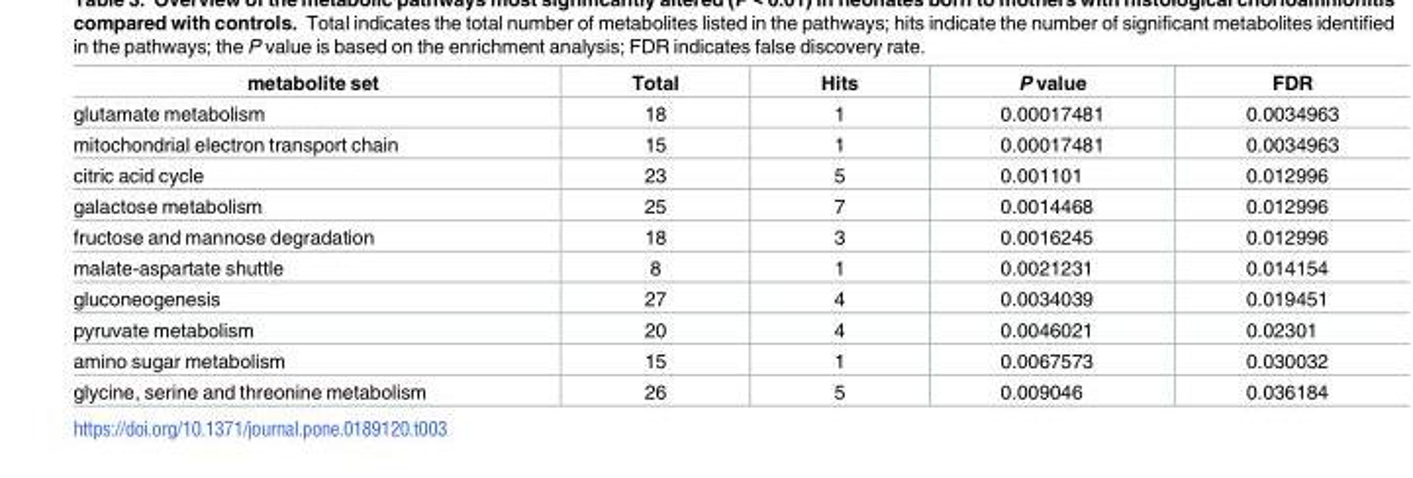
<table><thead><tr><td>metabolite set</td><td>Total</td><td>Hits</td><td>P value</td><td>FDR</td></tr></thead><tbody><tr><td>glutamate metabolism</td><td>18</td><td>1</td><td>0.00017481</td><td>0.0034963</td></tr><tr><td>mitochondrial electron transport chain</td><td>15</td><td>1</td><td>0.00017481</td><td>0.0034963</td></tr><tr><td>citric acid cycle</td><td>23</td><td>5</td><td>0.001101</td><td>0.012996</td></tr><tr><td>galactose metabolism</td><td>25</td><td>7</td><td>0.0014468</td><td>0.012996</td></tr><tr><td>fructose and mannose degradation</td><td>18</td><td>3</td><td>0.0016245</td><td>0.012996</td></tr><tr><td>malate-aspartate shuttle</td><td>8</td><td>1</td><td>0.0021231</td><td>0.014154</td></tr><tr><td>gluconeogenesis</td><td>27</td><td>4</td><td>0.0034039</td><td>0.019451</td></tr><tr><td>pyruvate metabolism</td><td>20</td><td>4</td><td>0.0046021</td><td>0.02301</td></tr><tr><td>amino sugar metabolism</td><td>15</td><td>1</td><td>0.0067573</td><td>0.030032</td></tr><tr><td>glycine, serine and threonine metabolism</td><td>26</td><td>5</td><td>0.009046</td><td>0.036184</td></tr></tbody></table>